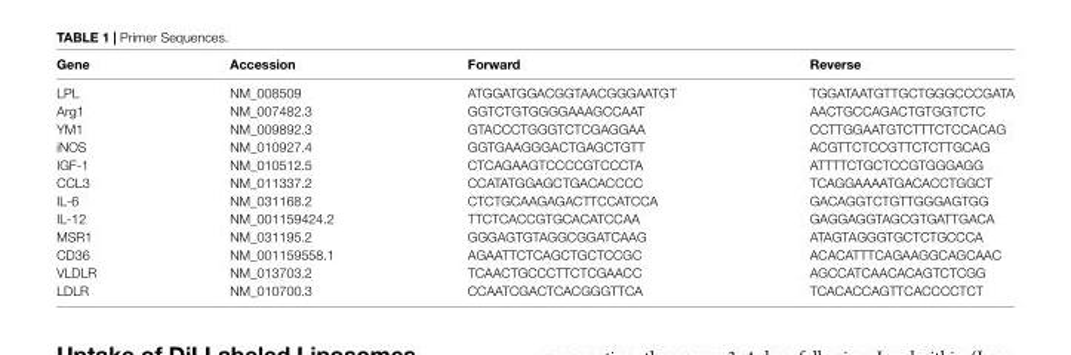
<table><thead><tr><td>Gene</td><td>Accession</td><td>Forward</td><td>Reverse</td></tr></thead><tbody><tr><td>LPL</td><td>NM_008509</td><td>ATGGATGGACGGTAACGGGAATGT</td><td>TGGATAATGTTGCTGGGCCCGATA</td></tr><tr><td>Arg1</td><td>NM_007482.3</td><td>GGTCTGTGGGGAAAGCCAAT</td><td>AACTGCCAGACTGTGGTCTC</td></tr><tr><td>YM1</td><td>NM_009892.3</td><td>GTACCCTGGGTCTCGAGGAA</td><td>CCTTGGAATGTCTTTCTCCACAG</td></tr><tr><td>iNOS</td><td>NM_010927.4</td><td>GGTGAAGGGACTGAGCTGTT</td><td>ACGTTCTCCGTTCTCTTGCAG</td></tr><tr><td>IGF-1</td><td>NM_010512.5</td><td>CTCAGAAGTCCCCGTCCCTA</td><td>ATTTTCTGCTCCGTGGGAGG</td></tr><tr><td>CCL3</td><td>NM_011337.2</td><td>CCATATGGAGCTGACACCCC</td><td>TCAGGAAAATGACACCTGGCT</td></tr><tr><td>IL-6</td><td>NM_031168.2</td><td>CTCTGCAAGAGACTTCCATCCA</td><td>GACAGGTCTGTTGGGAGTGG</td></tr><tr><td>IL-12</td><td>NM_001159424.2</td><td>TTCTCACCGTGCACATCCAA</td><td>GAGGAGGTAGCGTGATTGACA</td></tr><tr><td>MSR1</td><td>NM_031195.2</td><td>GGGAGTGTAGGCGGATCAAG</td><td>ATAGTAGGGTGCTCTGCCCA</td></tr><tr><td>CD36</td><td>NM_001159558.1</td><td>AGAATTCTCAGCTGCTCCGC</td><td>ACACATTTCAGAAGGCAGCAAC</td></tr><tr><td>VLDLR</td><td>NM_013703.2</td><td>TCAACTGCCCTTCTCGAACC</td><td>AGCCATCAACACAGTCTCGG</td></tr><tr><td>LDLR</td><td>NM_010700.3</td><td>CCAATCGACTCACGGGTTCA</td><td>TCACACCAGTTCACCCCTCT</td></tr></tbody></table>